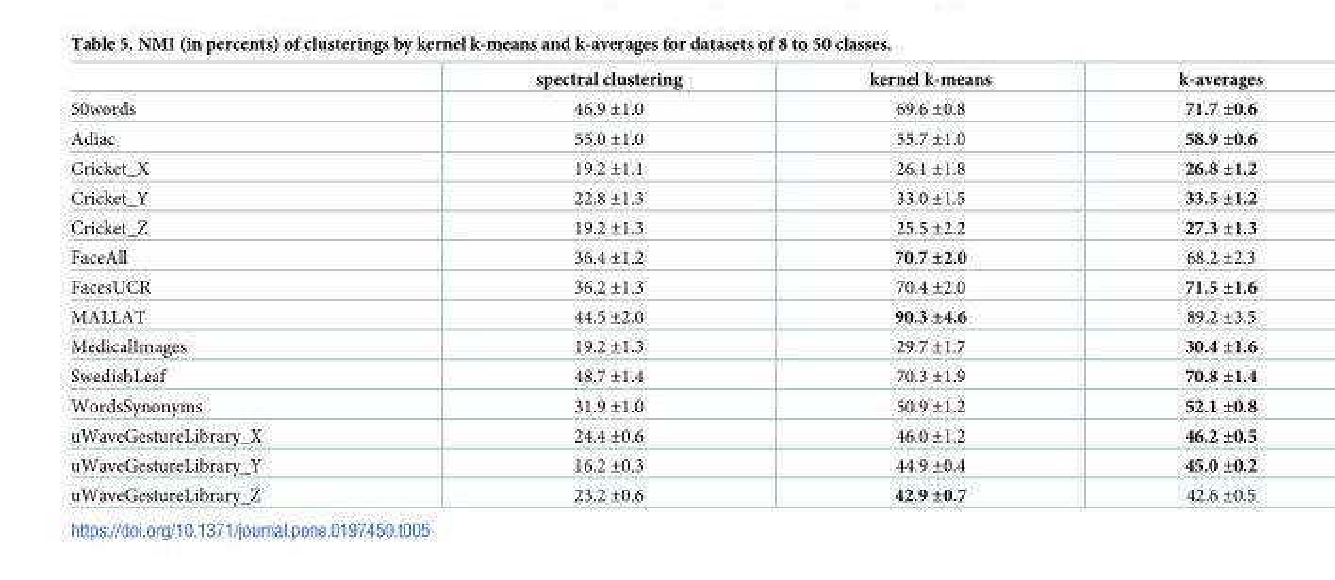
<table><thead><tr><td></td><td>spectral clustering</td><td>kernel k-means</td><td>k-averages</td></tr></thead><tbody><tr><td>50words</td><td>46.9 ±1.0</td><td>69.6 ±0.8</td><td>71.7 ±0.6</td></tr><tr><td>Adiac</td><td>55.0 ±1.0</td><td>55.7 ±1.0</td><td>58.9 ±0.6</td></tr><tr><td>Cricket_X</td><td>19.2 ±1.1</td><td>26.1 ±1.8</td><td>26.8 ±1.2</td></tr><tr><td>Cricket_Y</td><td>22.8 ±1.3</td><td>33.0 ±1.5</td><td>33.5 ±1.2</td></tr><tr><td>Cricket_Z</td><td>19.2 ±1.3</td><td>25.5 ±2.2</td><td>27.3 ±1.3</td></tr><tr><td>FaceAll</td><td>36.4 ±1.2</td><td>70.7 ±2.0</td><td>68.2 ±2.3</td></tr><tr><td>FacesUCR</td><td>36.2 ±1.3</td><td>70.4 ±2.0</td><td>71.5 ±1.6</td></tr><tr><td>MALLAT</td><td>44.5 ±2.0</td><td>90.3 ±4.6</td><td>89.2 ±3.5</td></tr><tr><td>MedicalImages</td><td>19.2 ±1.3</td><td>29.7 ±1.7</td><td>30.4 ±1.6</td></tr><tr><td>SwedishLeaf</td><td>48.7 ±1.4</td><td>70.3 ±1.9</td><td>70.8 ±1.4</td></tr><tr><td>WordsSynonyms</td><td>31.9 ±1.0</td><td>50.9 ±1.2</td><td>52.1 ±0.8</td></tr><tr><td>uWaveGestureLibrary_X</td><td>24.4 ±0.6</td><td>46.0 ±1.2</td><td>46.2 ±0.5</td></tr><tr><td>uWaveGestureLibrary_Y</td><td>16.2 ±0.3</td><td>44.9 ±0.4</td><td>45.0 ±0.2</td></tr><tr><td>uWaveGestureLibrary_Z</td><td>23.2 ±0.6</td><td>42.9 ±0.7</td><td>42.6 ±0.5</td></tr></tbody></table>